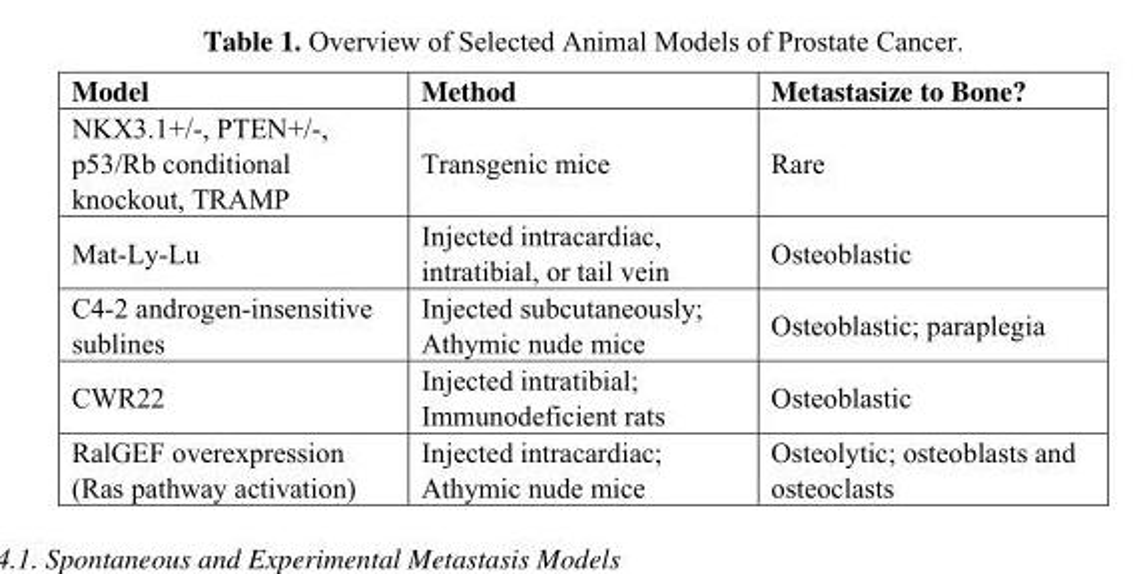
<table><thead><tr><td>Model</td><td>Method</td><td>Metastasize to Bone?</td></tr></thead><tbody><tr><td>NKX3.1+/-, PTEN+/-, p53/Rb conditional knockout, TRAMP</td><td>Transgenic mice</td><td>Rare</td></tr><tr><td>Mat-Ly-Lu</td><td>Injected intracardiac, intratibial, or tail vein</td><td>Osteoblastic</td></tr><tr><td>C4-2 androgen-insensitive sublines</td><td>Injected subcutaneously; Athymic nude mice</td><td>Osteoblastic; paraplegia</td></tr><tr><td>CWR22</td><td>Injected intratibial; Immunodeficient rats</td><td>Osteoblastic</td></tr><tr><td>RalGEF overexpression (Ras pathway activation)</td><td>Injected intracardiac; Athymic nude mice</td><td>Osteolytic; osteoblasts and osteoclasts</td></tr></tbody></table>